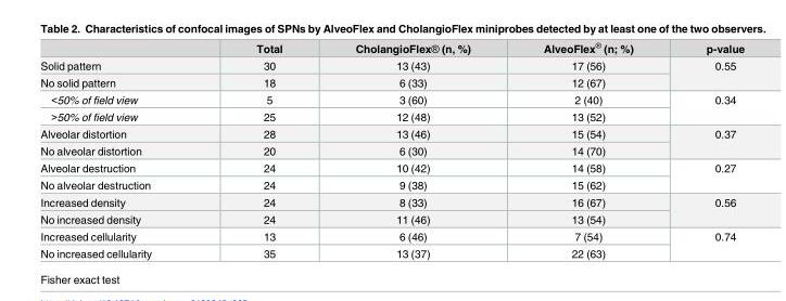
<table><thead><tr><td></td><td>Total</td><td>CholangioFlex® (n, %)</td><td>AlveoFlex<sup>®</sup> (n; %)</td><td>p-value</td></tr></thead><tbody><tr><td>Solid pattern</td><td>30</td><td>13 (43)</td><td>17 (56)</td><td rowspan="2">0.55</td></tr><tr><td>No solid pattern</td><td>18</td><td>6 (33)</td><td>12 (67)</td></tr><tr><td>&lt;50% of field view</td><td>5</td><td>3 (60)</td><td>2 (40)</td><td rowspan="2">0.34</td></tr><tr><td>&gt;50% of field view</td><td>25</td><td>12 (48)</td><td>13 (52)</td></tr><tr><td>Alveolar distortion</td><td>28</td><td>13 (46)</td><td>15 (54)</td><td rowspan="2">0.37</td></tr><tr><td>No alveolar distortion</td><td>20</td><td>6 (30)</td><td>14 (70)</td></tr><tr><td>Alveolar destruction</td><td>24</td><td>10 (42)</td><td>14 (58)</td><td rowspan="2">0.27</td></tr><tr><td>No alveolar destruction</td><td>24</td><td>9 (38)</td><td>15 (62)</td></tr><tr><td>Increased density</td><td>24</td><td>8 (33)</td><td>16 (67)</td><td rowspan="2">0.56</td></tr><tr><td>No increased density</td><td>24</td><td>11 (46)</td><td>13 (54)</td></tr><tr><td>Increased cellularity</td><td>13</td><td>6 (46)</td><td>7 (54)</td><td rowspan="2">0.74</td></tr><tr><td>No increased cellularity</td><td>35</td><td>13 (37)</td><td>22 (63)</td></tr></tbody></table>